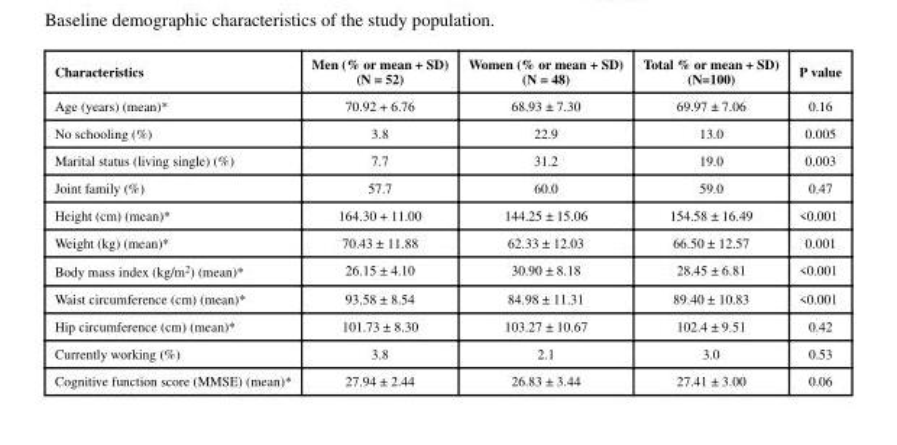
<table><thead><tr><td>Characteristics</td><td>Men (% or mean + SD) (N = 52)</td><td>Women (% or mean + SD) (N = 48)</td><td>Total % or mean + SD) (N=100)</td><td>P value</td></tr></thead><tbody><tr><td>Age (years) (mean)*</td><td>70.92 + 6.76</td><td>68.93 ± 7.30</td><td>69.97 ± 7.06</td><td>0.16</td></tr><tr><td>No schooling (%)</td><td>3.8</td><td>22.9</td><td>13.0</td><td>0.005</td></tr><tr><td>Marital status (living single) (%)</td><td>7.7</td><td>31.2</td><td>19.0</td><td>0.003</td></tr><tr><td>Joint family (%)</td><td>57.7</td><td>60.0</td><td>59.0</td><td>0.47</td></tr><tr><td>Height (cm) (mean)*</td><td>164.30 + 11.00</td><td>144.25 ± 15.06</td><td>154.58 ± 16.49</td><td>&lt;0.001</td></tr><tr><td>Weight (kg) (mean)*</td><td>70.43 ± 11.88</td><td>62.33 ± 12.03</td><td>66.50 ± 12.57</td><td>0.001</td></tr><tr><td>Body mass index (kg/m<sup>2</sup>) (mean)*</td><td>26.15 ± 4.10</td><td>30.90 ± 8.18</td><td>28.45 ± 6.81</td><td>&lt;0.001</td></tr><tr><td>Waist circumference (cm) (mean)*</td><td>93.58 ± 8.54</td><td>84.98 ± 11.31</td><td>89.40 ± 10.83</td><td>&lt;0.001</td></tr><tr><td>Hip circumference (cm) (mean)*</td><td>101.73 ± 8.30</td><td>103.27 ± 10.67</td><td>102.4 ± 9.51</td><td>0.42</td></tr><tr><td>Currently working (%)</td><td>3.8</td><td>2.1</td><td>3.0</td><td>0.53</td></tr><tr><td>Cognitive function score (MMSE) (mean)*</td><td>27.94 ± 2.44</td><td>26.83 ± 3.44</td><td>27.41 ± 3.00</td><td>0.06</td></tr></tbody></table>